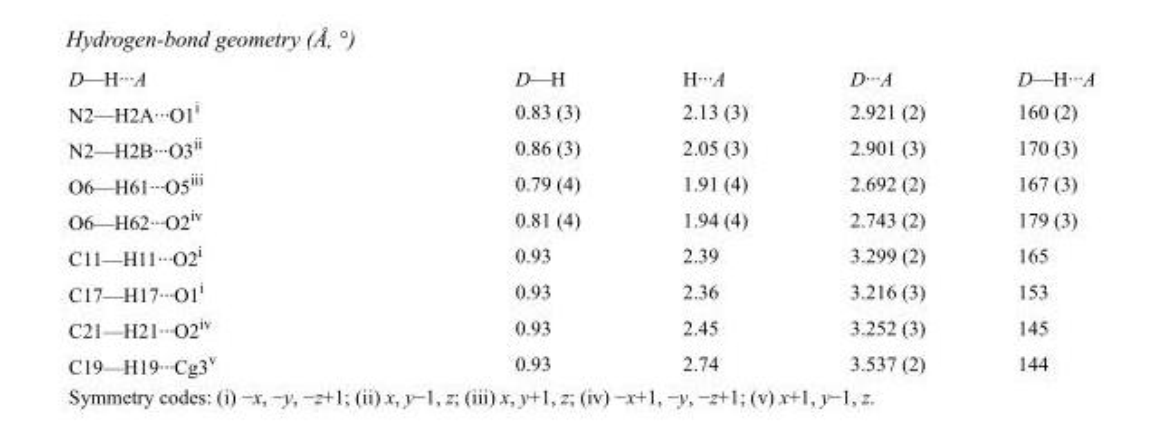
<table><tbody><tr><td>D—H···A</td><td>D—H</td><td>H···A</td><td>D···A</td><td>D—H···A</td></tr><tr><td>N2—H2A···O1<sup>i</sup></td><td>0.83 (3)</td><td>2.13 (3)</td><td>2.921 (2)</td><td>160 (2)</td></tr><tr><td>N2—H2B···O3<sup>ii</sup></td><td>0.86 (3)</td><td>2.05 (3)</td><td>2.901 (3)</td><td>170 (3)</td></tr><tr><td>O6—H61···O5<sup>iii</sup></td><td>0.79 (4)</td><td>1.91 (4)</td><td>2.692 (2)</td><td>167 (3)</td></tr><tr><td>O6—H62···O2<sup>iv</sup></td><td>0.81 (4)</td><td>1.94 (4)</td><td>2.743 (2)</td><td>179 (3)</td></tr><tr><td>C11—H11···O2<sup>i</sup></td><td>0.93</td><td>2.39</td><td>3.299 (2)</td><td>165</td></tr><tr><td>C17—H17···O1<sup>i</sup></td><td>0.93</td><td>2.36</td><td>3.216 (3)</td><td>153</td></tr><tr><td>C21—H21···O2<sup>iv</sup></td><td>0.93</td><td>2.45</td><td>3.252 (3)</td><td>145</td></tr><tr><td>C19—H19···Cg3<sup>v</sup></td><td>0.93</td><td>2.74</td><td>3.537 (2)</td><td>144</td></tr></tbody></table>